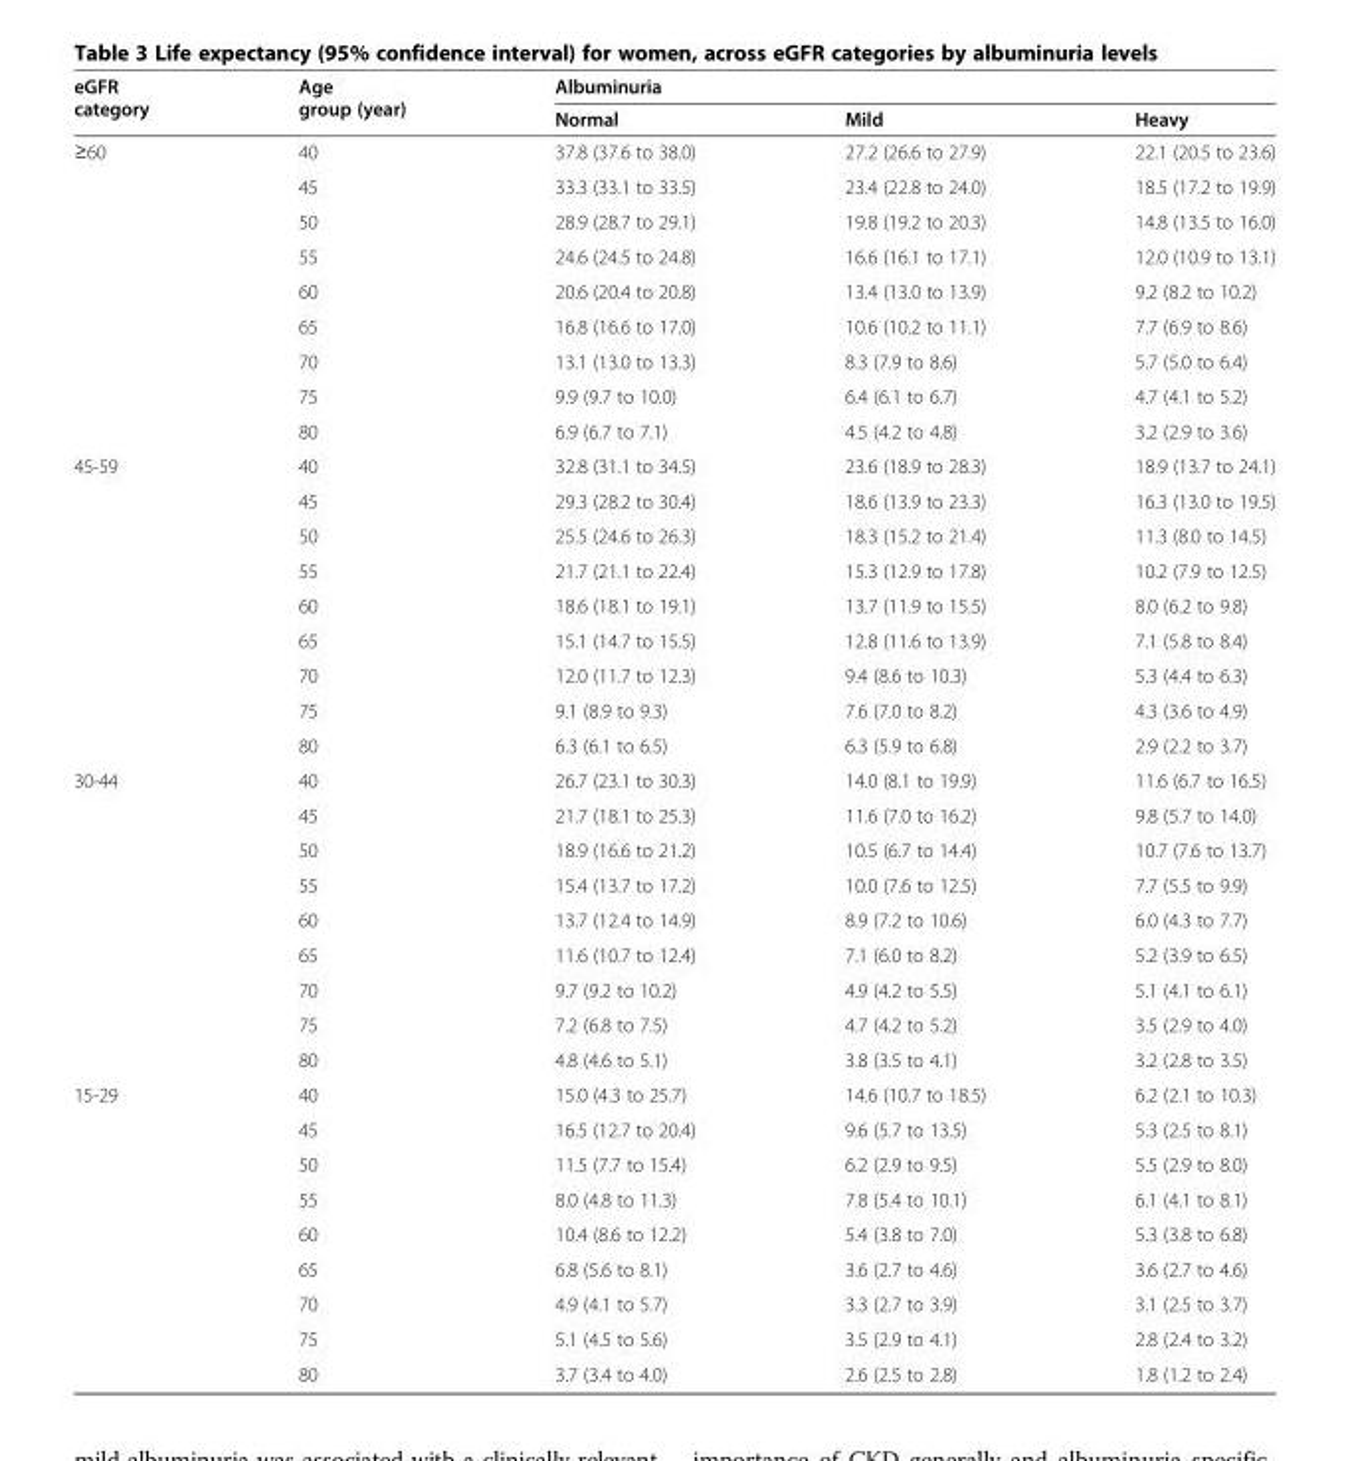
<table><thead><tr><td rowspan="2">eGFR category</td><td rowspan="2">Age group (year)</td><td colspan="3">Albuminuria</td></tr><tr><td>Normal</td><td>Mild</td><td>Heavy</td></tr></thead><tbody><tr><td rowspan="9">≥60</td><td>40</td><td>37.8 (37.6 to 38.0)</td><td>27.2 (26.6 to 27.9)</td><td>22.1 (20.5 to 23.6)</td></tr><tr><td>45</td><td>33.3 (33.1 to 33.5)</td><td>23.4 (22.8 to 24.0)</td><td>18.5 (17.2 to 19.9)</td></tr><tr><td>50</td><td>28.9 (28.7 to 29.1)</td><td>19.8 (19.2 to 20.3)</td><td>14.8 (13.5 to 16.0)</td></tr><tr><td>55</td><td>24.6 (24.5 to 24.8)</td><td>16.6 (16.1 to 17.1)</td><td>12.0 (10.9 to 13.1)</td></tr><tr><td>60</td><td>20.6 (20.4 to 20.8)</td><td>13.4 (13.0 to 13.9)</td><td>9.2 (8.2 to 10.2)</td></tr><tr><td>65</td><td>16.8 (16.6 to 17.0)</td><td>10.6 (10.2 to 11.1)</td><td>7.7 (6.9 to 8.6)</td></tr><tr><td>70</td><td>13.1 (13.0 to 13.3)</td><td>8.3 (7.9 to 8.6)</td><td>5.7 (5.0 to 6.4)</td></tr><tr><td>75</td><td>9.9 (9.7 to 10.0)</td><td>6.4 (6.1 to 6.7)</td><td>4.7 (4.1 to 5.2)</td></tr><tr><td>80</td><td>6.9 (6.7 to 7.1)</td><td>4.5 (4.2 to 4.8)</td><td>3.2 (2.9 to 3.6)</td></tr><tr><td rowspan="9">45-59</td><td>40</td><td>32.8 (31.1 to 34.5)</td><td>23.6 (18.9 to 28.3)</td><td>18.9 (13.7 to 24.1)</td></tr><tr><td>45</td><td>29.3 (28.2 to 30.4)</td><td>18.6 (13.9 to 23.3)</td><td>16.3 (13.0 to 19.5)</td></tr><tr><td>50</td><td>25.5 (24.6 to 26.3)</td><td>18.3 (15.2 to 21.4)</td><td>11.3 (8.0 to 14.5)</td></tr><tr><td>55</td><td>21.7 (21.1 to 22.4)</td><td>15.3 (12.9 to 17.8)</td><td>10.2 (7.9 to 12.5)</td></tr><tr><td>60</td><td>18.6 (18.1 to 19.1)</td><td>13.7 (11.9 to 15.5)</td><td>8.0 (6.2 to 9.8)</td></tr><tr><td>65</td><td>15.1 (14.7 to 15.5)</td><td>12.8 (11.6 to 13.9)</td><td>7.1 (5.8 to 8.4)</td></tr><tr><td>70</td><td>12.0 (11.7 to 12.3)</td><td>9.4 (8.6 to 10.3)</td><td>5.3 (4.4 to 6.3)</td></tr><tr><td>75</td><td>9.1 (8.9 to 9.3)</td><td>7.6 (7.0 to 8.2)</td><td>4.3 (3.6 to 4.9)</td></tr><tr><td>80</td><td>6.3 (6.1 to 6.5)</td><td>6.3 (5.9 to 6.8)</td><td>2.9 (2.2 to 3.7)</td></tr><tr><td rowspan="9">30-44</td><td>40</td><td>26.7 (23.1 to 30.3)</td><td>14.0 (8.1 to 19.9)</td><td>11.6 (6.7 to 16.5)</td></tr><tr><td>45</td><td>21.7 (18.1 to 25.3)</td><td>11.6 (7.0 to 16.2)</td><td>9.8 (5.7 to 14.0)</td></tr><tr><td>50</td><td>18.9 (16.6 to 21.2)</td><td>10.5 (6.7 to 14.4)</td><td>10.7 (7.6 to 13.7)</td></tr><tr><td>55</td><td>15.4 (13.7 to 17.2)</td><td>10.0 (7.6 to 12.5)</td><td>7.7 (5.5 to 9.9)</td></tr><tr><td>60</td><td>13.7 (12.4 to 14.9)</td><td>8.9 (7.2 to 10.6)</td><td>6.0 (4.3 to 7.7)</td></tr><tr><td>65</td><td>11.6 (10.7 to 12.4)</td><td>7.1 (6.0 to 8.2)</td><td>5.2 (3.9 to 6.5)</td></tr><tr><td>70</td><td>9.7 (9.2 to 10.2)</td><td>4.9 (4.2 to 5.5)</td><td>5.1 (4.1 to 6.1)</td></tr><tr><td>75</td><td>7.2 (6.8 to 7.5)</td><td>4.7 (4.2 to 5.2)</td><td>3.5 (2.9 to 4.0)</td></tr><tr><td>80</td><td>4.8 (4.6 to 5.1)</td><td>3.8 (3.5 to 4.1)</td><td>3.2 (2.8 to 3.5)</td></tr><tr><td rowspan="9">15-29</td><td>40</td><td>15.0 (4.3 to 25.7)</td><td>14.6 (10.7 to 18.5)</td><td>6.2 (2.1 to 10.3)</td></tr><tr><td>45</td><td>16.5 (12.7 to 20.4)</td><td>9.6 (5.7 to 13.5)</td><td>5.3 (2.5 to 8.1)</td></tr><tr><td>50</td><td>11.5 (7.7 to 15.4)</td><td>6.2 (2.9 to 9.5)</td><td>5.5 (2.9 to 8.0)</td></tr><tr><td>55</td><td>8.0 (4.8 to 11.3)</td><td>7.8 (5.4 to 10.1)</td><td>6.1 (4.1 to 8.1)</td></tr><tr><td>60</td><td>10.4 (8.6 to 12.2)</td><td>5.4 (3.8 to 7.0)</td><td>5.3 (3.8 to 6.8)</td></tr><tr><td>65</td><td>6.8 (5.6 to 8.1)</td><td>3.6 (2.7 to 4.6)</td><td>3.6 (2.7 to 4.6)</td></tr><tr><td>70</td><td>4.9 (4.1 to 5.7)</td><td>3.3 (2.7 to 3.9)</td><td>3.1 (2.5 to 3.7)</td></tr><tr><td>75</td><td>5.1 (4.5 to 5.6)</td><td>3.5 (2.9 to 4.1)</td><td>2.8 (2.4 to 3.2)</td></tr><tr><td>80</td><td>3.7 (3.4 to 4.0)</td><td>2.6 (2.5 to 2.8)</td><td>1.8 (1.2 to 2.4)</td></tr></tbody></table>